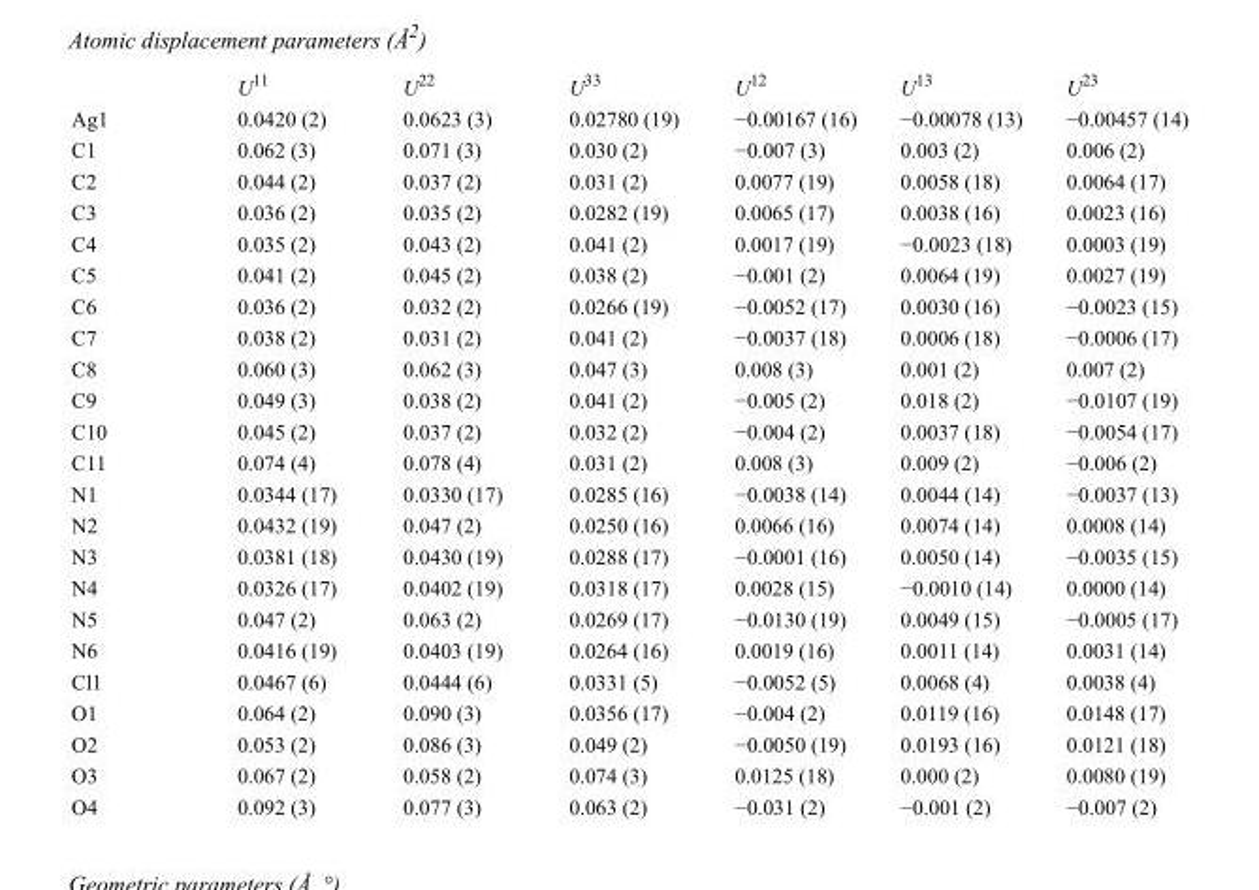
<table><thead><tr><td></td><td>U<sup>11</sup></td><td>U<sup>22</sup></td><td>U<sup>33</sup></td><td>U<sup>12</sup></td><td>U<sup>13</sup></td><td>U<sup>23</sup></td></tr></thead><tbody><tr><td>Ag1</td><td>0.0420 (2)</td><td>0.0623 (3)</td><td>0.02780 (19)</td><td>−0.00167 (16)</td><td>−0.00078 (13)</td><td>−0.00457 (14)</td></tr><tr><td>C1</td><td>0.062 (3)</td><td>0.071 (3)</td><td>0.030 (2)</td><td>−0.007 (3)</td><td>0.003 (2)</td><td>0.006 (2)</td></tr><tr><td>C2</td><td>0.044 (2)</td><td>0.037 (2)</td><td>0.031 (2)</td><td>0.0077 (19)</td><td>0.0058 (18)</td><td>0.0064 (17)</td></tr><tr><td>C3</td><td>0.036 (2)</td><td>0.035 (2)</td><td>0.0282 (19)</td><td>0.0065 (17)</td><td>0.0038 (16)</td><td>0.0023 (16)</td></tr><tr><td>C4</td><td>0.035 (2)</td><td>0.043 (2)</td><td>0.041 (2)</td><td>0.0017 (19)</td><td>−0.0023 (18)</td><td>0.0003 (19)</td></tr><tr><td>C5</td><td>0.041 (2)</td><td>0.045 (2)</td><td>0.038 (2)</td><td>−0.001 (2)</td><td>0.0064 (19)</td><td>0.0027 (19)</td></tr><tr><td>C6</td><td>0.036 (2)</td><td>0.032 (2)</td><td>0.0266 (19)</td><td>−0.0052 (17)</td><td>0.0030 (16)</td><td>−0.0023 (15)</td></tr><tr><td>C7</td><td>0.038 (2)</td><td>0.031 (2)</td><td>0.041 (2)</td><td>−0.0037 (18)</td><td>0.0006 (18)</td><td>−0.0006 (17)</td></tr><tr><td>C8</td><td>0.060 (3)</td><td>0.062 (3)</td><td>0.047 (3)</td><td>0.008 (3)</td><td>0.001 (2)</td><td>0.007 (2)</td></tr><tr><td>C9</td><td>0.049 (3)</td><td>0.038 (2)</td><td>0.041 (2)</td><td>−0.005 (2)</td><td>0.018 (2)</td><td>−0.0107 (19)</td></tr><tr><td>C10</td><td>0.045 (2)</td><td>0.037 (2)</td><td>0.032 (2)</td><td>−0.004 (2)</td><td>0.0037 (18)</td><td>−0.0054 (17)</td></tr><tr><td>C11</td><td>0.074 (4)</td><td>0.078 (4)</td><td>0.031 (2)</td><td>0.008 (3)</td><td>0.009 (2)</td><td>−0.006 (2)</td></tr><tr><td>N1</td><td>0.0344 (17)</td><td>0.0330 (17)</td><td>0.0285 (16)</td><td>−0.0038 (14)</td><td>0.0044 (14)</td><td>−0.0037 (13)</td></tr><tr><td>N2</td><td>0.0432 (19)</td><td>0.047 (2)</td><td>0.0250 (16)</td><td>0.0066 (16)</td><td>0.0074 (14)</td><td>0.0008 (14)</td></tr><tr><td>N3</td><td>0.0381 (18)</td><td>0.0430 (19)</td><td>0.0288 (17)</td><td>−0.0001 (16)</td><td>0.0050 (14)</td><td>−0.0035 (15)</td></tr><tr><td>N4</td><td>0.0326 (17)</td><td>0.0402 (19)</td><td>0.0318 (17)</td><td>0.0028 (15)</td><td>−0.0010 (14)</td><td>0.0000 (14)</td></tr><tr><td>N5</td><td>0.047 (2)</td><td>0.063 (2)</td><td>0.0269 (17)</td><td>−0.0130 (19)</td><td>0.0049 (15)</td><td>−0.0005 (17)</td></tr><tr><td>N6</td><td>0.0416 (19)</td><td>0.0403 (19)</td><td>0.0264 (16)</td><td>0.0019 (16)</td><td>0.0011 (14)</td><td>0.0031 (14)</td></tr><tr><td>Cl1</td><td>0.0467 (6)</td><td>0.0444 (6)</td><td>0.0331 (5)</td><td>−0.0052 (5)</td><td>0.0068 (4)</td><td>0.0038 (4)</td></tr><tr><td>O1</td><td>0.064 (2)</td><td>0.090 (3)</td><td>0.0356 (17)</td><td>−0.004 (2)</td><td>0.0119 (16)</td><td>0.0148 (17)</td></tr><tr><td>O2</td><td>0.053 (2)</td><td>0.086 (3)</td><td>0.049 (2)</td><td>−0.0050 (19)</td><td>0.0193 (16)</td><td>0.0121 (18)</td></tr><tr><td>O3</td><td>0.067 (2)</td><td>0.058 (2)</td><td>0.074 (3)</td><td>0.0125 (18)</td><td>0.000 (2)</td><td>0.0080 (19)</td></tr><tr><td>O4</td><td>0.092 (3)</td><td>0.077 (3)</td><td>0.063 (2)</td><td>−0.031 (2)</td><td>−0.001 (2)</td><td>−0.007 (2)</td></tr></tbody></table>